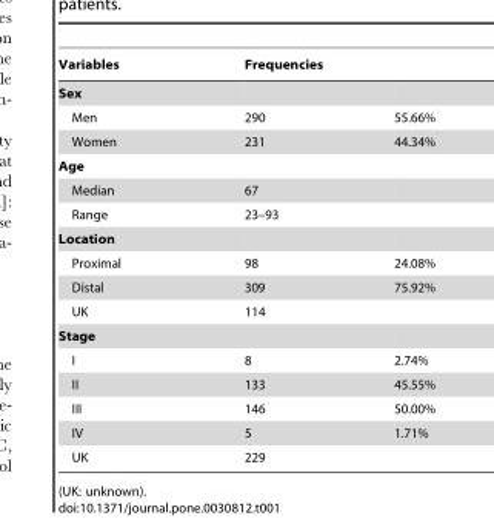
<table><thead><tr><td rowspan="2">Variables Sex</td><td colspan="2">Frequencies</td></tr><tr><td></td><td></td></tr></thead><tbody><tr><td>Men</td><td>290</td><td>55.66%</td></tr><tr><td>Women</td><td>231</td><td>44.34%</td></tr><tr><td colspan="3">Age</td></tr><tr><td>Median</td><td>67</td><td></td></tr><tr><td>Range</td><td>23–93</td><td></td></tr><tr><td colspan="3">Location</td></tr><tr><td>Proximal</td><td>98</td><td>24.08%</td></tr><tr><td>Distal</td><td>309</td><td>75.92%</td></tr><tr><td>UK</td><td>114</td><td></td></tr><tr><td colspan="3">Stage</td></tr><tr><td>I</td><td>8</td><td>2.74%</td></tr><tr><td>II</td><td>133</td><td>45.55%</td></tr><tr><td>III</td><td>146</td><td>50.00%</td></tr><tr><td>IV</td><td>5</td><td>1.71%</td></tr><tr><td>UK</td><td>229</td><td></td></tr></tbody></table>